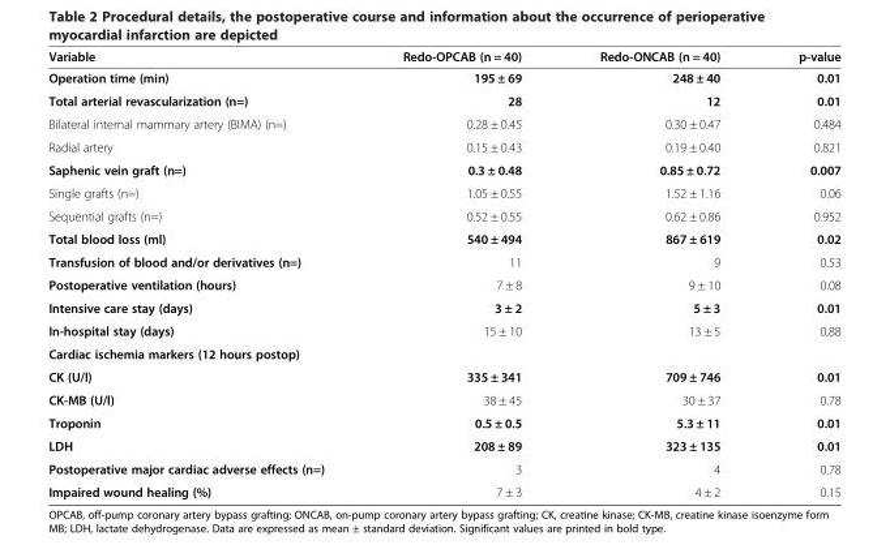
<table><thead><tr><td>Variable</td><td>Redo-OPCAB (n = 40)</td><td>Redo-ONCAB (n = 40)</td><td>p-value</td></tr></thead><tbody><tr><td>Operation time (min)</td><td>195 ± 69</td><td>248 ± 40</td><td>0.01</td></tr><tr><td>Total arterial revascularization (n=)</td><td>28</td><td>12</td><td>0.01</td></tr><tr><td>Bilateral internal mammary artery (BIMA) (n=)</td><td>0.28 ± 0.45</td><td>0.30 ± 0.47</td><td>0.484</td></tr><tr><td>Radial artery</td><td>0.15 ± 0.43</td><td>0.19 ± 0.40</td><td>0.821</td></tr><tr><td>Saphenic vein graft (n=)</td><td>0.3 ± 0.48</td><td>0.85 ± 0.72</td><td>0.007</td></tr><tr><td>Single grafts (n=)</td><td>1.05 ± 0.55</td><td>1.52 ± 1.16</td><td>0.06</td></tr><tr><td>Sequential grafts (n=)</td><td>0.52 ± 0.55</td><td>0.62 ± 0.86</td><td>0.952</td></tr><tr><td>Total blood loss (ml)</td><td>540 ± 494</td><td>867 ± 619</td><td>0.02</td></tr><tr><td>Transfusion of blood and/or derivatives (n=)</td><td>11</td><td>9</td><td>0.53</td></tr><tr><td>Postoperative ventilation (hours)</td><td>7 ± 8</td><td>9 ± 10</td><td>0.08</td></tr><tr><td>Intensive care stay (days)</td><td>3 ± 2</td><td>5 ± 3</td><td>0.01</td></tr><tr><td>In-hospital stay (days)</td><td>15 ± 10</td><td>13 ± 5</td><td>0.88</td></tr><tr><td colspan="4">Cardiac ischemia markers (12 hours postop)</td></tr><tr><td>CK (U/l)</td><td>335 ± 341</td><td>709 ± 746</td><td>0.01</td></tr><tr><td>CK-MB (U/l)</td><td>38 ± 45</td><td>30 ± 37</td><td>0.78</td></tr><tr><td>Troponin</td><td>0.5 ± 0.5</td><td>5.3 ± 11</td><td>0.01</td></tr><tr><td>LDH</td><td>208 ± 89</td><td>323 ± 135</td><td>0.01</td></tr><tr><td>Postoperative major cardiac adverse effects (n=)</td><td>3</td><td>4</td><td>0.78</td></tr><tr><td>Impaired wound healing (%)</td><td>7 ± 3</td><td>4 ± 2</td><td>0.15</td></tr></tbody></table>